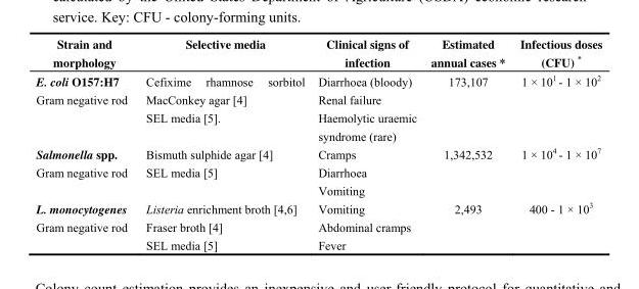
<table><thead><tr><td>Strain and morphology</td><td>Selective media</td><td>Clinical signs of infection</td><td>Estimated annual cases *</td><td>Infectious doses (CFU) *</td></tr></thead><tbody><tr><td>E. coli O157:H7 Gram negative rod</td><td>Cefixime rhamnose sorbitol MacConkey agar [4] SEL media [5].</td><td>Diarrhoea (bloody) Renal failure Haemolytic uraemic syndrome (rare)</td><td>173,107</td><td>1 × 10<sup>1</sup> - 1 × 10<sup>2</sup></td></tr><tr><td>Salmonella spp. Gram negative rod</td><td>Bismuth sulphide agar [4] SEL media [5]</td><td>Cramps Diarrhoea Vomiting</td><td>1,342,532</td><td>1 × 10<sup>4</sup> - 1 × 10<sup>7</sup></td></tr><tr><td>L. monocytogenes Gram negative rod</td><td>Listeria enrichment broth [4,6] Fraser broth [4] SEL media [5]</td><td>Vomiting Abdominal cramps Fever</td><td>2,493</td><td>400 - 1 × 10<sup>3</sup></td></tr></tbody></table>